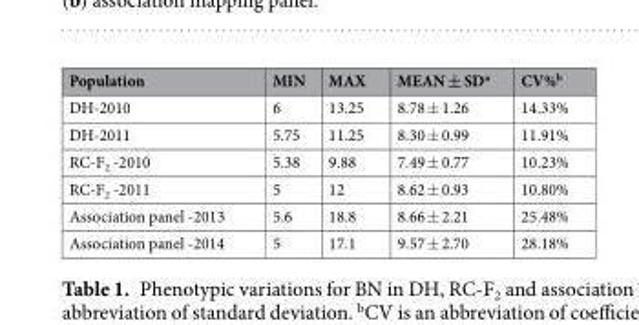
<table><thead><tr><td>Population</td><td>MIN</td><td>MAX</td><td>MEAN ± SD<sup>a</sup></td><td>CV%<sup>b</sup></td></tr></thead><tbody><tr><td>DH-2010</td><td>6</td><td>13.25</td><td>8.78 ± 1.26</td><td>14.33%</td></tr><tr><td>DH-2011</td><td>5.75</td><td>11.25</td><td>8.30 ± 0.99</td><td>11.91%</td></tr><tr><td>RC-F<sub>2</sub> -2010</td><td>5.38</td><td>9.88</td><td>7.49 ± 0.77</td><td>10.23%</td></tr><tr><td>RC-F<sub>2</sub> -2011</td><td>5</td><td>12</td><td>8.62 ± 0.93</td><td>10.80%</td></tr><tr><td>Association panel -2013</td><td>5.6</td><td>18.8</td><td>8.66 ± 2.21</td><td>25.48%</td></tr><tr><td>Association panel -2014</td><td>5</td><td>17.1</td><td>9.57 ± 2.70</td><td>28.18%</td></tr></tbody></table>